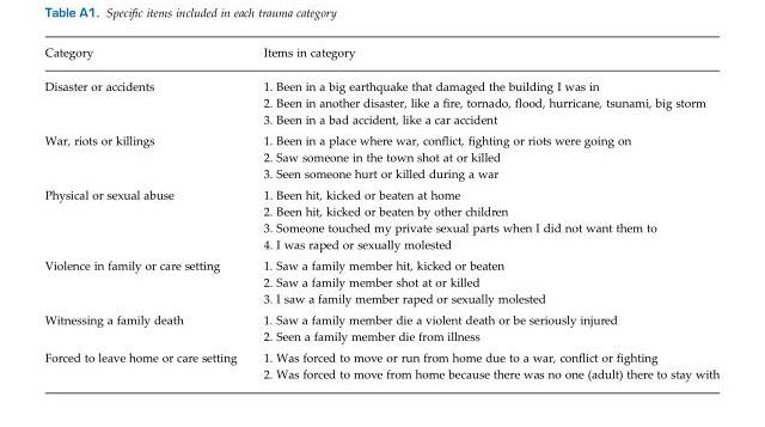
<table><thead><tr><td>Category</td><td>Items in category</td></tr></thead><tbody><tr><td rowspan="3">Disaster or accidents</td><td>1. Been in a big earthquake that damaged the building I was in</td></tr><tr><td>2. Been in another disaster, like a fire, tornado, flood, hurricane, tsunami, big storm</td></tr><tr><td>3. Been in a bad accident, like a car accident</td></tr><tr><td rowspan="3">War, riots or killings</td><td>1. Been in a place where war, conflict, fighting or riots were going on</td></tr><tr><td>2. Saw someone in the town shot at or killed</td></tr><tr><td>3. Seen someone hurt or killed during a war</td></tr><tr><td rowspan="4">Physical or sexual abuse</td><td>1. Been hit, kicked or beaten at home</td></tr><tr><td>2. Been hit, kicked or beaten by other children</td></tr><tr><td>3. Someone touched my private sexual parts when I did not want them to</td></tr><tr><td>4. I was raped or sexually molested</td></tr><tr><td rowspan="3">Violence in family or care setting</td><td>1. Saw a family member hit, kicked or beaten</td></tr><tr><td>2. Saw a family member shot at or killed</td></tr><tr><td>3. I saw a family member raped or sexually molested</td></tr><tr><td rowspan="2">Witnessing a family death</td><td>1. Saw a family member die a violent death or be seriously injured</td></tr><tr><td>2. Seen a family member die from illness</td></tr><tr><td rowspan="2">Forced to leave home or care setting</td><td>1. Was forced to move or run from home due to a war, conflict or fighting</td></tr><tr><td>2. Was forced to move from home because there was no one (adult) there to stay with</td></tr></tbody></table>